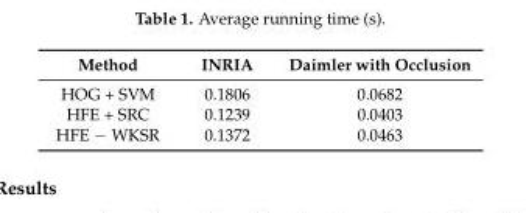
<table><thead><tr><td>Method</td><td>INRIA</td><td>Daimler with Occlusion</td></tr></thead><tbody><tr><td>HOG + SVM</td><td>0.1806</td><td>0.0682</td></tr><tr><td>HFE + SRC</td><td>0.1239</td><td>0.0403</td></tr><tr><td>HFE − WKSR</td><td>0.1372</td><td>0.0463</td></tr></tbody></table>